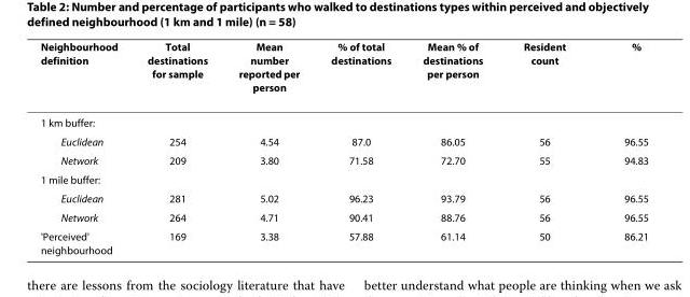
<table><thead><tr><td>Neighbourhood definition</td><td>Total destinations for sample</td><td>Mean number reported per person</td><td>% of total destinations</td><td>Mean % of destinations per person</td><td>Resident count</td><td>%</td></tr></thead><tbody><tr><td colspan="7">1 km buffer:</td></tr><tr><td>Euclidean</td><td>254</td><td>4.54</td><td>87.0</td><td>86.05</td><td>56</td><td>96.55</td></tr><tr><td>Network</td><td>209</td><td>3.80</td><td>71.58</td><td>72.70</td><td>55</td><td>94.83</td></tr><tr><td colspan="7">1 mile buffer:</td></tr><tr><td>Euclidean</td><td>281</td><td>5.02</td><td>96.23</td><td>93.79</td><td>56</td><td>96.55</td></tr><tr><td>Network</td><td>264</td><td>4.71</td><td>90.41</td><td>88.76</td><td>56</td><td>96.55</td></tr><tr><td>&#x27;Perceived&#x27; neighbourhood</td><td>169</td><td>3.38</td><td>57.88</td><td>61.14</td><td>50</td><td>86.21</td></tr></tbody></table>